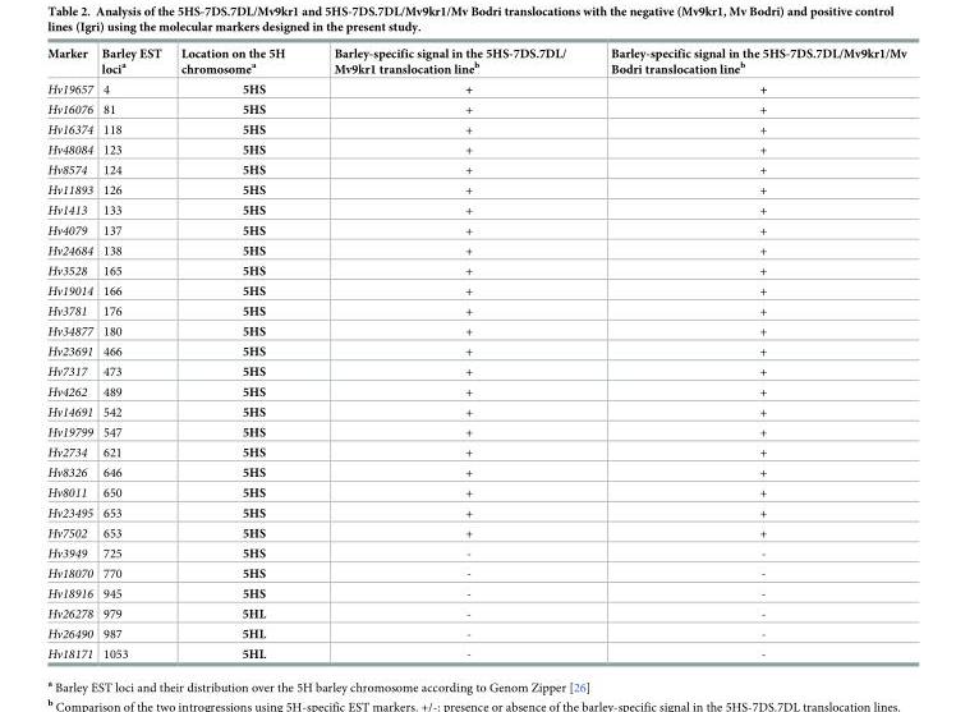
<table><thead><tr><td>Marker</td><td>Barley EST loci<sup>a</sup></td><td>Location on the 5H chromosome<sup>a</sup></td><td>Barley-specific signal in the 5HS-7DS.7DL/ Mv9kr1 translocation line<sup>b</sup></td><td>Barley-specific signal in the 5HS-7DS.7DL/Mv9kr1/Mv Bodri translocation line<sup>b</sup></td></tr></thead><tbody><tr><td>Hv19657</td><td>4</td><td>5HS</td><td>+</td><td>+</td></tr><tr><td>Hv16076</td><td>81</td><td>5HS</td><td>+</td><td>+</td></tr><tr><td>Hv16374</td><td>118</td><td>5HS</td><td>+</td><td>+</td></tr><tr><td>Hv48084</td><td>123</td><td>5HS</td><td>+</td><td>+</td></tr><tr><td>Hv8574</td><td>124</td><td>5HS</td><td>+</td><td>+</td></tr><tr><td>Hv11893</td><td>126</td><td>5HS</td><td>+</td><td>+</td></tr><tr><td>Hv1413</td><td>133</td><td>5HS</td><td>+</td><td>+</td></tr><tr><td>Hv4079</td><td>137</td><td>5HS</td><td>+</td><td>+</td></tr><tr><td>Hv24684</td><td>138</td><td>5HS</td><td>+</td><td>+</td></tr><tr><td>Hv3528</td><td>165</td><td>5HS</td><td>+</td><td>+</td></tr><tr><td>Hv19014</td><td>166</td><td>5HS</td><td>+</td><td>+</td></tr><tr><td>Hv3781</td><td>176</td><td>5HS</td><td>+</td><td>+</td></tr><tr><td>Hv34877</td><td>180</td><td>5HS</td><td>+</td><td>+</td></tr><tr><td>Hv23691</td><td>466</td><td>5HS</td><td>+</td><td>+</td></tr><tr><td>Hv7317</td><td>473</td><td>5HS</td><td>+</td><td>+</td></tr><tr><td>Hv4262</td><td>489</td><td>5HS</td><td>+</td><td>+</td></tr><tr><td>Hv14691</td><td>542</td><td>5HS</td><td>+</td><td>+</td></tr><tr><td>Hv19799</td><td>547</td><td>5HS</td><td>+</td><td>+</td></tr><tr><td>Hv2734</td><td>621</td><td>5HS</td><td>+</td><td>+</td></tr><tr><td>Hv8326</td><td>646</td><td>5HS</td><td>+</td><td>+</td></tr><tr><td>Hv8011</td><td>650</td><td>5HS</td><td>+</td><td>+</td></tr><tr><td>Hv23495</td><td>653</td><td>5HS</td><td>+</td><td>+</td></tr><tr><td>Hv7502</td><td>653</td><td>5HS</td><td>+</td><td>+</td></tr><tr><td>Hv3949</td><td>725</td><td>5HS</td><td>-</td><td>-</td></tr><tr><td>Hv18070</td><td>770</td><td>5HS</td><td>-</td><td>-</td></tr><tr><td>Hv18916</td><td>945</td><td>5HS</td><td>-</td><td>-</td></tr><tr><td>Hv26278</td><td>979</td><td>5HL</td><td>-</td><td>-</td></tr><tr><td>Hv26490</td><td>987</td><td>5HL</td><td>-</td><td>-</td></tr><tr><td>Hv18171</td><td>1053</td><td>5HL</td><td>-</td><td>-</td></tr></tbody></table>